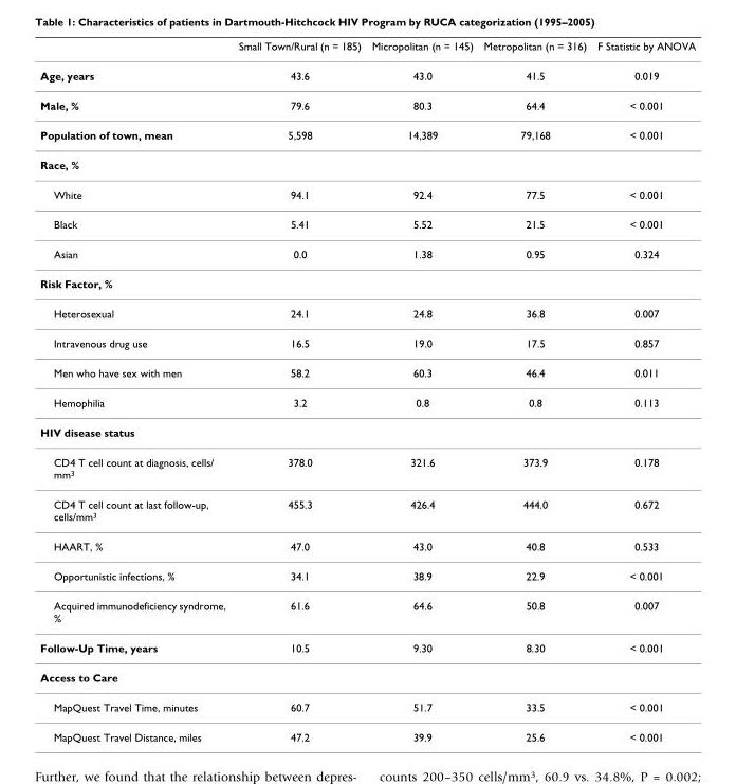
<table><thead><tr><td></td><td>Small Town/Rural (n = 185)</td><td>Micropolitan (n = 145)</td><td>Metropolitan (n = 316)</td><td>F Statistic by ANOVA</td></tr></thead><tbody><tr><td>Age, years</td><td>43.6</td><td>43.0</td><td>41.5</td><td>0.019</td></tr><tr><td>Male, %</td><td>79.6</td><td>80.3</td><td>64.4</td><td>&lt; 0.001</td></tr><tr><td>Population of town, mean</td><td>5,598</td><td>14,389</td><td>79,168</td><td>&lt; 0.001</td></tr><tr><td colspan="5">Race, %</td></tr><tr><td>White</td><td>94.1</td><td>92.4</td><td>77.5</td><td>&lt; 0.001</td></tr><tr><td>Black</td><td>5.41</td><td>5.52</td><td>21.5</td><td>&lt; 0.001</td></tr><tr><td>Asian</td><td>0.0</td><td>1.38</td><td>0.95</td><td>0.324</td></tr><tr><td colspan="5">Risk Factor, %</td></tr><tr><td>Heterosexual</td><td>24.1</td><td>24.8</td><td>36.8</td><td>0.007</td></tr><tr><td>Intravenous drug use</td><td>16.5</td><td>19.0</td><td>17.5</td><td>0.857</td></tr><tr><td>Men who have sex with men</td><td>58.2</td><td>60.3</td><td>46.4</td><td>0.011</td></tr><tr><td>Hemophilia</td><td>3.2</td><td>0.8</td><td>0.8</td><td>0.113</td></tr><tr><td colspan="5">HIV disease status</td></tr><tr><td>CD4 T cell count at diagnosis, cells/ mm<sup>3</sup></td><td>378.0</td><td>321.6</td><td>373.9</td><td>0.178</td></tr><tr><td>CD4 T cell count at last follow-up, cells/mm<sup>3</sup></td><td>455.3</td><td>426.4</td><td>444.0</td><td>0.672</td></tr><tr><td>HAART, %</td><td>47.0</td><td>43.0</td><td>40.8</td><td>0.533</td></tr><tr><td>Opportunistic infections, %</td><td>34.1</td><td>38.9</td><td>22.9</td><td>&lt; 0.001</td></tr><tr><td>Acquired immunodeficiency syndrome, %</td><td>61.6</td><td>64.6</td><td>50.8</td><td>0.007</td></tr><tr><td>Follow-Up Time, years</td><td>10.5</td><td>9.30</td><td>8.30</td><td>&lt; 0.001</td></tr><tr><td colspan="5">Access to Care</td></tr><tr><td>MapQuest Travel Time, minutes</td><td>60.7</td><td>51.7</td><td>33.5</td><td>&lt; 0.001</td></tr><tr><td>MapQuest Travel Distance, miles</td><td>47.2</td><td>39.9</td><td>25.6</td><td>&lt; 0.001</td></tr></tbody></table>